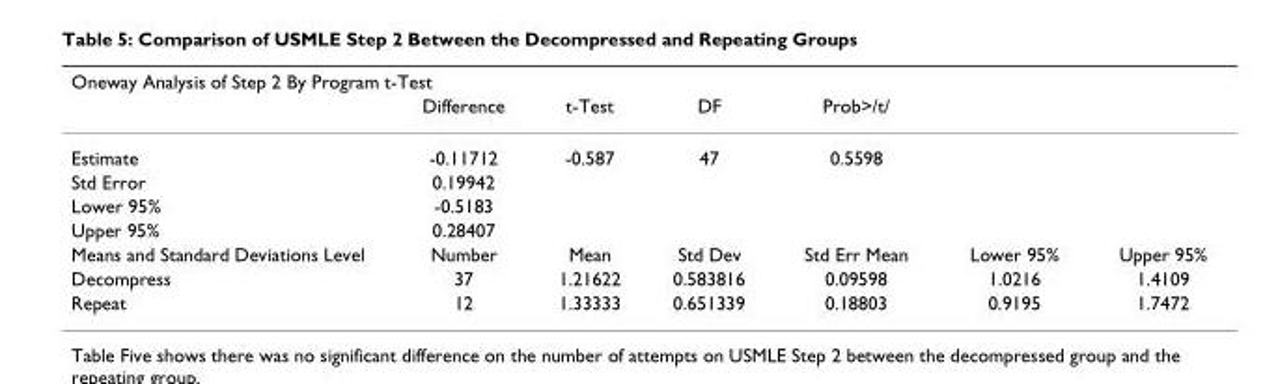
<table><thead><tr><td colspan="7">Oneway Analysis of Step 2 By Program t-Test</td></tr><tr><td></td><td>Difference</td><td>t-Test</td><td>DF</td><td>Prob&gt;/t/</td><td></td><td></td></tr></thead><tbody><tr><td>Estimate</td><td>-0.11712</td><td>-0.587</td><td>47</td><td>0.5598</td><td></td><td></td></tr><tr><td>Std Error</td><td>0.19942</td><td></td><td></td><td></td><td></td><td></td></tr><tr><td>Lower 95%</td><td>-0.5183</td><td></td><td></td><td></td><td></td><td></td></tr><tr><td>Upper 95%</td><td>0.28407</td><td></td><td></td><td></td><td></td><td></td></tr><tr><td>Means and Standard Deviations Level</td><td>Number</td><td>Mean</td><td>Std Dev</td><td>Std Err Mean</td><td>Lower 95%</td><td>Upper 95%</td></tr><tr><td>Decompress</td><td>37</td><td>1.21622</td><td>0.583816</td><td>0.09598</td><td>1.0216</td><td>1.4109</td></tr><tr><td>Repeat</td><td>12</td><td>1.33333</td><td>0.651339</td><td>0.18803</td><td>0.9195</td><td>1.7472</td></tr></tbody></table>